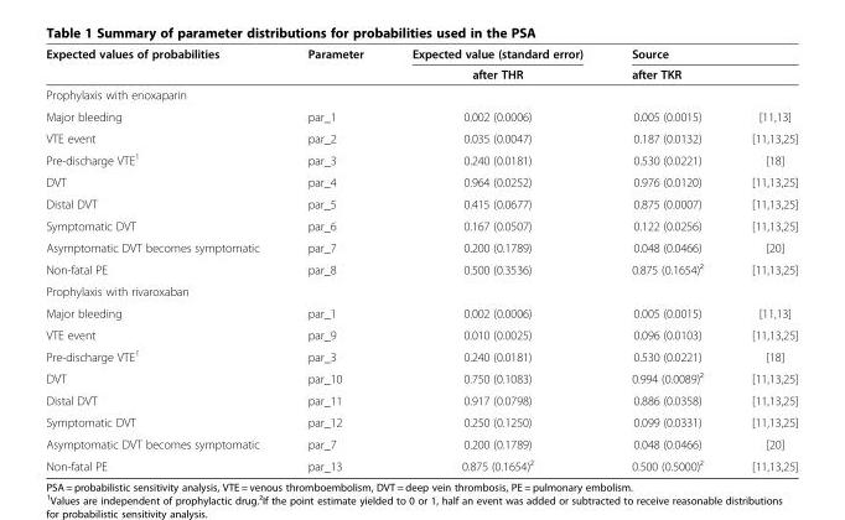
<table><thead><tr><td rowspan="3">Expected values of probabilities Prophylaxis with enoxaparin</td><td rowspan="3">Parameter</td><td rowspan="3">Expected value (standard error) after THR</td><td rowspan="2" colspan="2">Source after TKR</td></tr><tr></tr><tr><td></td><td></td></tr></thead><tbody><tr><td>Major bleeding</td><td>par_1</td><td>0.002 (0.0006)</td><td>0.005 (0.0015)</td><td>[11,13]</td></tr><tr><td>VTE event</td><td>par_2</td><td>0.035 (0.0047)</td><td>0.187 (0.0132)</td><td>[11,13,25]</td></tr><tr><td>Pre-discharge VTE<sup>1</sup></td><td>par_3</td><td>0.240 (0.0181)</td><td>0.530 (0.0221)</td><td>[18]</td></tr><tr><td>DVT</td><td>par_4</td><td>0.964 (0.0252)</td><td>0.976 (0.0120)</td><td>[11,13,25]</td></tr><tr><td>Distal DVT</td><td>par_5</td><td>0.415 (0.0677)</td><td>0.875 (0.0007)</td><td>[11,13,25]</td></tr><tr><td>Symptomatic DVT</td><td>par_6</td><td>0.167 (0.0507)</td><td>0.122 (0.0256)</td><td>[11,13,25]</td></tr><tr><td>Asymptomatic DVT becomes symptomatic</td><td>par_7</td><td>0.200 (0.1789)</td><td>0.048 (0.0466)</td><td>[20]</td></tr><tr><td>Non-fatal PE</td><td>par_8</td><td>0.500 (0.3536)</td><td>0.875 (0.1654)²</td><td>[11,13,25]</td></tr><tr><td colspan="5">Prophylaxis with rivaroxaban</td></tr><tr><td>Major bleeding</td><td>par_1</td><td>0.002 (0.0006)</td><td>0.005 (0.0015)</td><td>[11,13]</td></tr><tr><td>VTE event</td><td>par_9</td><td>0.010 (0.0025)</td><td>0.096 (0.0103)</td><td>[11,13,25]</td></tr><tr><td>Pre-discharge VTE<sup>1</sup></td><td>par_3</td><td>0.240 (0.0181)</td><td>0.530 (0.0221)</td><td>[18]</td></tr><tr><td>DVT</td><td>par_10</td><td>0.750 (0.1083)</td><td>0.994 (0.0089)²</td><td>[11,13,25]</td></tr><tr><td>Distal DVT</td><td>par_11</td><td>0.917 (0.0798)</td><td>0.886 (0.0358)</td><td>[11,13,25]</td></tr><tr><td>Symptomatic DVT</td><td>par_12</td><td>0.250 (0.1250)</td><td>0.099 (0.0331)</td><td>[11,13,25]</td></tr><tr><td>Asymptomatic DVT becomes symptomatic</td><td>par_7</td><td>0.200 (0.1789)</td><td>0.048 (0.0466)</td><td>[20]</td></tr><tr><td>Non-fatal PE</td><td>par_13</td><td>0.875 (0.1654)²</td><td>0.500 (0.5000)²</td><td>[11,13,25]</td></tr></tbody></table>